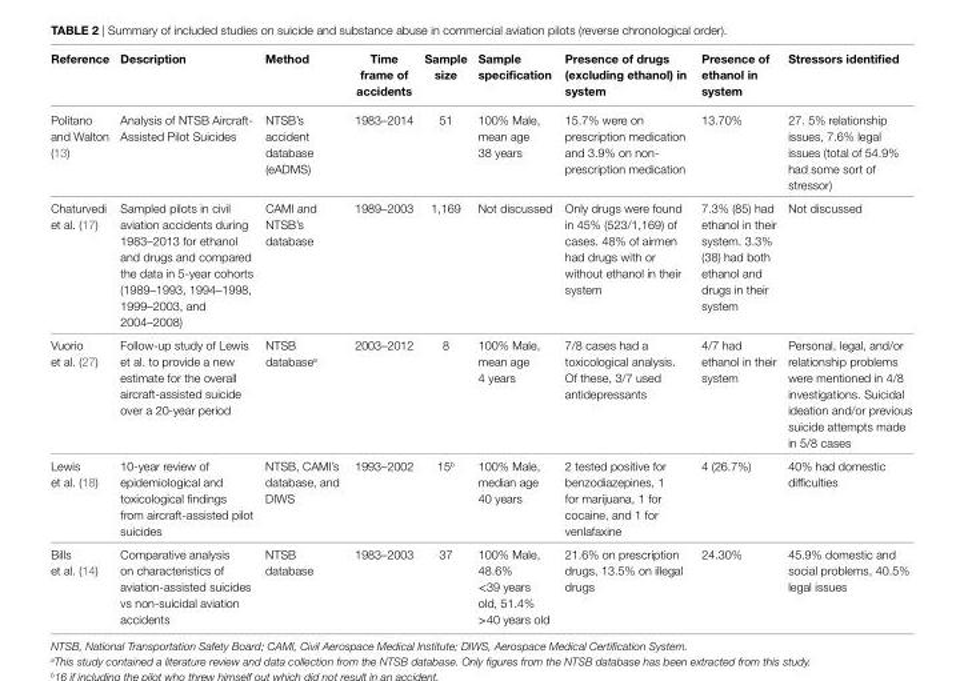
<table><thead><tr><td>Reference</td><td>Description</td><td>method</td><td>time frame of accidents</td><td>Sample size</td><td>Sample specification</td><td>Presence of drugs (excluding ethanol) in system</td><td>Presence of ethanol in system</td><td>Stressors identified</td></tr></thead><tbody><tr><td>Politano and Walton (13)</td><td>Analysis of NTSB Aircraft- Assisted Pilot Suicides</td><td>NTSB’s accident database (eADMS)</td><td>1983–2014</td><td>51</td><td>100% Male, mean age 38 years</td><td>15.7% were on prescription medication and 3.9% on non- prescription medication</td><td>13.70%</td><td>27. 5% relationship issues, 7.6% legal issues (total of 54.9% had some sort of stressor)</td></tr><tr><td>Chaturvedi et al. (17)</td><td>Sampled pilots in civil aviation accidents during 1983–2013 for ethanol and drugs and compared the data in 5-year cohorts (1989–1993, 1994–1998, 1999–2003, and 2004–2008)</td><td>CAMI and NTSB’s database</td><td>1989–2003</td><td>1,169</td><td>Not discussed</td><td>Only drugs were found in 45% (523/1,169) of cases. 48% of airmen had drugs with or without ethanol in their system</td><td>7.3% (85) had ethanol in their system. 3.3% (38) had both ethanol and drugs in their system</td><td>Not discussed</td></tr><tr><td>Vuorio et al. (27)</td><td>Follow-up study of Lewis et al. to provide a new estimate for the overall aircraft-assisted suicide over a 20-year period</td><td>NTSB database<sup>a</sup></td><td>2003–2012</td><td>8</td><td>100% Male, mean age 4 years</td><td>7/8 cases had a toxicological analysis. Of these, 3/7 used antidepressants</td><td>4/7 had ethanol in their system</td><td>Personal, legal, and/or relationship problems were mentioned in 4/8 investigations. Suicidal ideation and/or previous suicide attempts made in 5/8 cases</td></tr><tr><td>Lewis et al. (18)</td><td>10-year review of epidemiological and toxicological findings from aircraft-assisted pilot suicides</td><td>NTSB, CAMI’s database, and DIWS</td><td>1993–2002</td><td>15<sup>b</sup></td><td>100% Male, median age 40 years</td><td>2 tested positive for benzodiazepines, 1 for marijuana, 1 for cocaine, and 1 for venlafaxine</td><td>4 (26.7%)</td><td>40% had domestic difficulties</td></tr><tr><td>Bills et al. (14)</td><td>Comparative analysis on characteristics of aviation-assisted suicides vs non-suicidal aviation accidents</td><td>NTSB database</td><td>1983–2003</td><td>37</td><td>100% Male, 48.6% &lt;39 years old, 51.4% &gt;40 years old</td><td>21.6% on prescription drugs, 13.5% on illegal drugs</td><td>24.30%</td><td>45.9% domestic and social problems, 40.5% legal issues</td></tr></tbody></table>